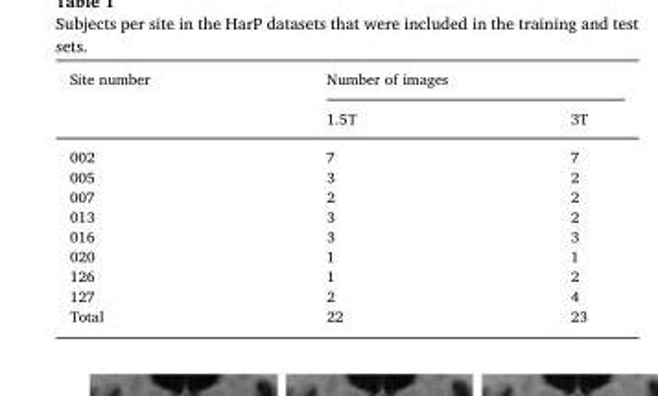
<table><thead><tr><td rowspan="2">Site number</td><td colspan="2">Number of images</td></tr><tr><td>1.5T</td><td>3T</td></tr></thead><tbody><tr><td>002</td><td>7</td><td>7</td></tr><tr><td>005</td><td>3</td><td>2</td></tr><tr><td>007</td><td>2</td><td>2</td></tr><tr><td>013</td><td>3</td><td>2</td></tr><tr><td>016</td><td>3</td><td>3</td></tr><tr><td>020</td><td>1</td><td>1</td></tr><tr><td>126</td><td>1</td><td>2</td></tr><tr><td>127</td><td>2</td><td>4</td></tr><tr><td>Total</td><td>22</td><td>23</td></tr></tbody></table>